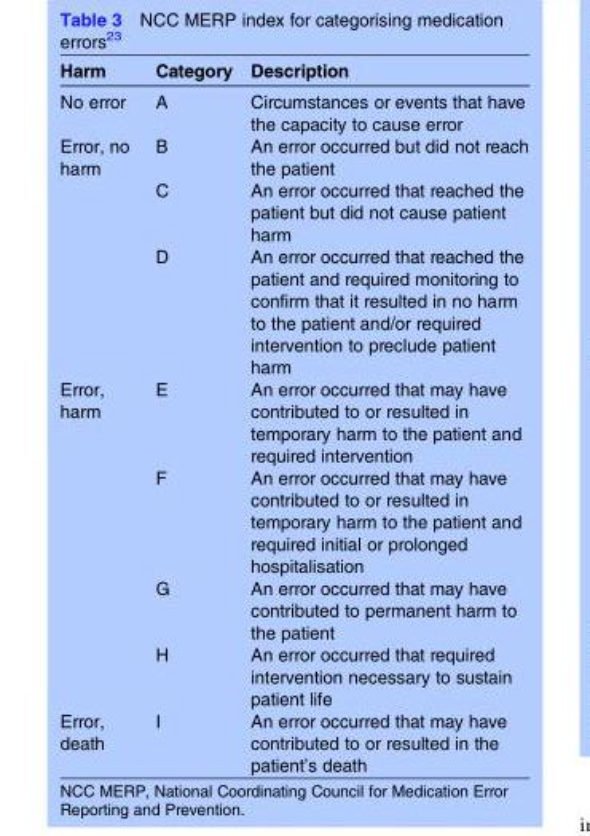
<table><thead><tr><td>Harm</td><td>Category</td><td>Description</td></tr></thead><tbody><tr><td>No error</td><td>A</td><td>Circumstances or events that have the capacity to cause error</td></tr><tr><td rowspan="3">Error, no harm</td><td>B</td><td>An error occurred but did not reach the patient</td></tr><tr><td>C</td><td>An error occurred that reached the patient but did not cause patient harm</td></tr><tr><td>D</td><td>An error occurred that reached the patient and required monitoring to confirm that it resulted in no harm to the patient and/or required intervention to preclude patient harm</td></tr><tr><td rowspan="4">Error, harm</td><td>E</td><td>An error occurred that may have contributed to or resulted in temporary harm to the patient and required intervention</td></tr><tr><td>F</td><td>An error occurred that may have contributed to or resulted in temporary harm to the patient and required initial or prolonged hospitalisation</td></tr><tr><td>G</td><td>An error occurred that may have contributed to permanent harm to the patient</td></tr><tr><td>H</td><td>An error occurred that required intervention necessary to sustain patient life</td></tr><tr><td>Error, death</td><td>I</td><td>An error occurred that may have contributed to or resulted in the patient’s death</td></tr></tbody></table>